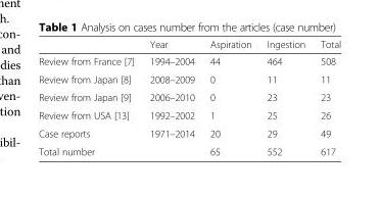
<table><thead><tr><td></td><td>Year</td><td>Aspiration</td><td>Ingestion</td><td>Total</td></tr></thead><tbody><tr><td>Review from France [7]</td><td>1994–2004</td><td>44</td><td>464</td><td>508</td></tr><tr><td>Review from Japan [8]</td><td>2008–2009</td><td>0</td><td>11</td><td>11</td></tr><tr><td>Review from Japan [9]</td><td>2006–2010</td><td>0</td><td>23</td><td>23</td></tr><tr><td>Review from USA [13]</td><td>1992–2002</td><td>1</td><td>25</td><td>26</td></tr><tr><td>Case reports</td><td>1971–2014</td><td>20</td><td>29</td><td>49</td></tr><tr><td colspan="2">Total number</td><td>65</td><td>552</td><td>617</td></tr></tbody></table>